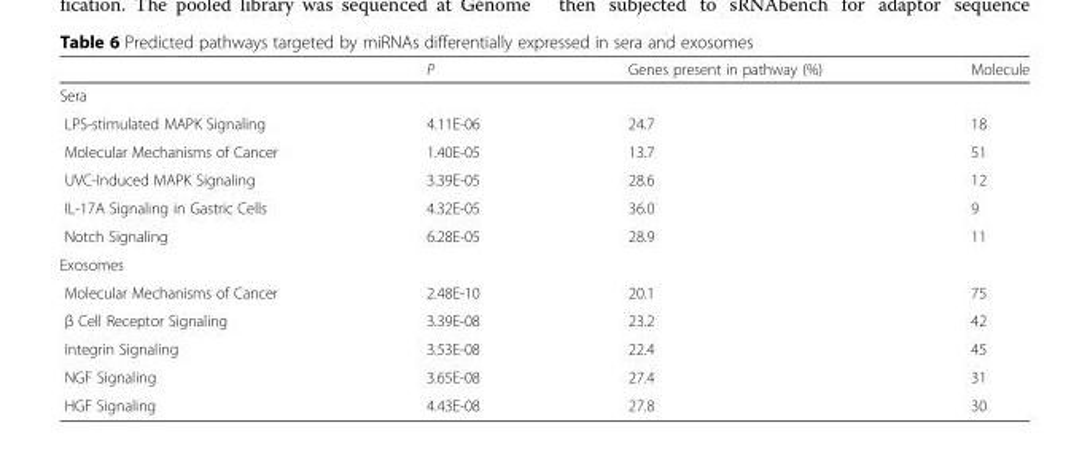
<table><thead><tr><td></td><td>P</td><td>Genes present in pathway (%)</td><td>Molecule</td></tr></thead><tbody><tr><td colspan="4">Sera</td></tr><tr><td>LPS-stimulated MAPK Signaling</td><td>4.11E-06</td><td>24.7</td><td>18</td></tr><tr><td>Molecular Mechanisms of Cancer</td><td>1.40E-05</td><td>13.7</td><td>51</td></tr><tr><td>UVC-Induced MAPK Signaling</td><td>3.39E-05</td><td>28.6</td><td>12</td></tr><tr><td>IL-17A Signaling in Gastric Cells</td><td>4.32E-05</td><td>36.0</td><td>9</td></tr><tr><td>Notch Signaling</td><td>6.28E-05</td><td>28.9</td><td>11</td></tr><tr><td colspan="4">Exosomes</td></tr><tr><td>Molecular Mechanisms of Cancer</td><td>2.48E-10</td><td>20.1</td><td>75</td></tr><tr><td>β Cell Receptor Signaling</td><td>3.39E-08</td><td>23.2</td><td>42</td></tr><tr><td>Integrin Signaling</td><td>3.53E-08</td><td>22.4</td><td>45</td></tr><tr><td>NGF Signaling</td><td>3.65E-08</td><td>27.4</td><td>31</td></tr><tr><td>HGF Signaling</td><td>4.43E-08</td><td>27.8</td><td>30</td></tr></tbody></table>